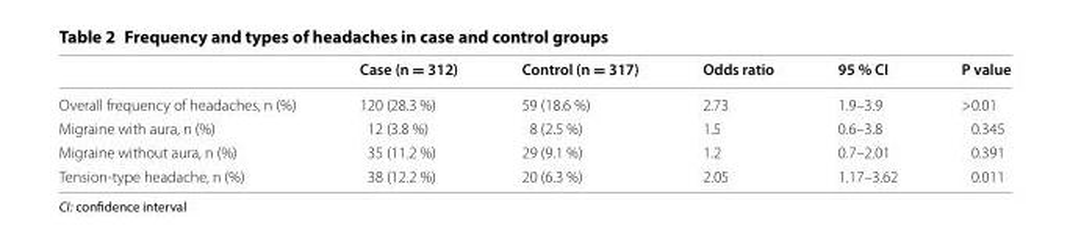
<table><thead><tr><td></td><td>Case (n = 312)</td><td>Control (n = 317)</td><td>Odds ratio</td><td>95 % CI</td><td>P value</td></tr></thead><tbody><tr><td>Overall frequency of headaches, n (%)</td><td>120 (28.3 %)</td><td>59 (18.6 %)</td><td>2.73</td><td>1.9–3.9</td><td>&gt;0.01</td></tr><tr><td>Migraine with aura, n (%)</td><td>12 (3.8 %)</td><td>8 (2.5 %)</td><td>1.5</td><td>0.6–3.8</td><td>0.345</td></tr><tr><td>Migraine without aura, n (%)</td><td>35 (11.2 %)</td><td>29 (9.1 %)</td><td>1.2</td><td>0.7–2.01</td><td>0.391</td></tr><tr><td>Tension-type headache, n (%)</td><td>38 (12.2 %)</td><td>20 (6.3 %)</td><td>2.05</td><td>1.17–3.62</td><td>0.011</td></tr></tbody></table>